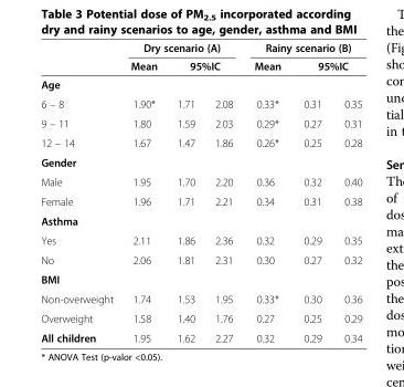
<table><thead><tr><td rowspan="3">Age</td><td colspan="3">Dry scenario (A)</td><td colspan="3">Rainy scenario (B)</td></tr><tr><td rowspan="2">Mean</td><td colspan="2">95%IC</td><td rowspan="2">Mean</td><td colspan="2">95%IC</td></tr><tr><td></td><td></td><td></td><td></td></tr></thead><tbody><tr><td>6 – 8</td><td>1.90*</td><td>1.71</td><td>2.08</td><td>0.33*</td><td>0.31</td><td>0.35</td></tr><tr><td>9 – 11</td><td>1.80</td><td>1.59</td><td>2.03</td><td>0.29*</td><td>0.27</td><td>0.31</td></tr><tr><td>12 – 14</td><td>1.67</td><td>1.47</td><td>1.86</td><td>0.26*</td><td>0.25</td><td>0.28</td></tr><tr><td colspan="7">Gender</td></tr><tr><td>Male</td><td>1.95</td><td>1.70</td><td>2.20</td><td>0.36</td><td>0.32</td><td>0.40</td></tr><tr><td>Female</td><td>1.96</td><td>1.71</td><td>2.21</td><td>0.34</td><td>0.31</td><td>0.38</td></tr><tr><td colspan="7">Asthma</td></tr><tr><td>Yes</td><td>2.11</td><td>1.86</td><td>2.36</td><td>0.32</td><td>0.29</td><td>0.35</td></tr><tr><td>No</td><td>2.06</td><td>1.81</td><td>2.31</td><td>0.30</td><td>0.27</td><td>0.32</td></tr><tr><td colspan="7">BMI</td></tr><tr><td>Non-overweight</td><td>1.74</td><td>1.53</td><td>1.95</td><td>0.33*</td><td>0.30</td><td>0.36</td></tr><tr><td>Overweight</td><td>1.58</td><td>1.40</td><td>1.76</td><td>0.27</td><td>0.25</td><td>0.29</td></tr><tr><td>All children</td><td>1.95</td><td>1.62</td><td>2.27</td><td>0.32</td><td>0.29</td><td>0.34</td></tr></tbody></table>